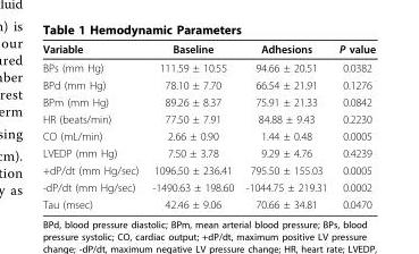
<table><thead><tr><td>Variable</td><td>Baseline</td><td>Adhesions</td><td>P value</td></tr></thead><tbody><tr><td>BPs (mm Hg)</td><td>111.59 ± 10.55</td><td>94.66 ± 20.51</td><td>0.0382</td></tr><tr><td>BPd (mm Hg)</td><td>78.10 ± 7.70</td><td>66.54 ± 21.91</td><td>0.1276</td></tr><tr><td>BPm (mm Hg)</td><td>89.26 ± 8.37</td><td>75.91 ± 21.33</td><td>0.0842</td></tr><tr><td>HR (beats/min)</td><td>77.50 ± 7.91</td><td>84.88 ± 9.43</td><td>0.2230</td></tr><tr><td>CO (mL/min)</td><td>2.66 ± 0.90</td><td>1.44 ± 0.48</td><td>0.0005</td></tr><tr><td>LVEDP (mm Hg)</td><td>7.50 ± 3.78</td><td>9.29 ± 4.76</td><td>0.4239</td></tr><tr><td>+dP/dt (mm Hg/sec)</td><td>1096.50 ± 236.41</td><td>795.50 ± 155.03</td><td>0.0005</td></tr><tr><td>-dP/dt (mm Hg/sec)</td><td>-1490.63 ± 198.60</td><td>-1044.75 ± 219.31</td><td>0.0002</td></tr><tr><td>Tau (msec)</td><td>42.46 ± 9.06</td><td>70.66 ± 34.81</td><td>0.0470</td></tr></tbody></table>